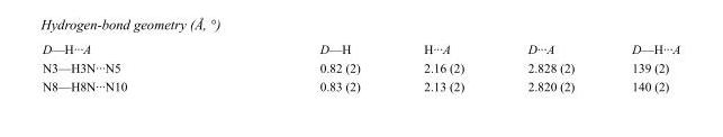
<table><tbody><tr><td>D—H···A</td><td>D—H</td><td>H···A</td><td>D···A</td><td>D—H···A</td></tr><tr><td>N3—H3N···N5</td><td>0.82 (2)</td><td>2.16 (2)</td><td>2.828 (2)</td><td>139 (2)</td></tr><tr><td>N8—H8N···N10</td><td>0.83 (2)</td><td>2.13 (2)</td><td>2.820 (2)</td><td>140 (2)</td></tr></tbody></table>